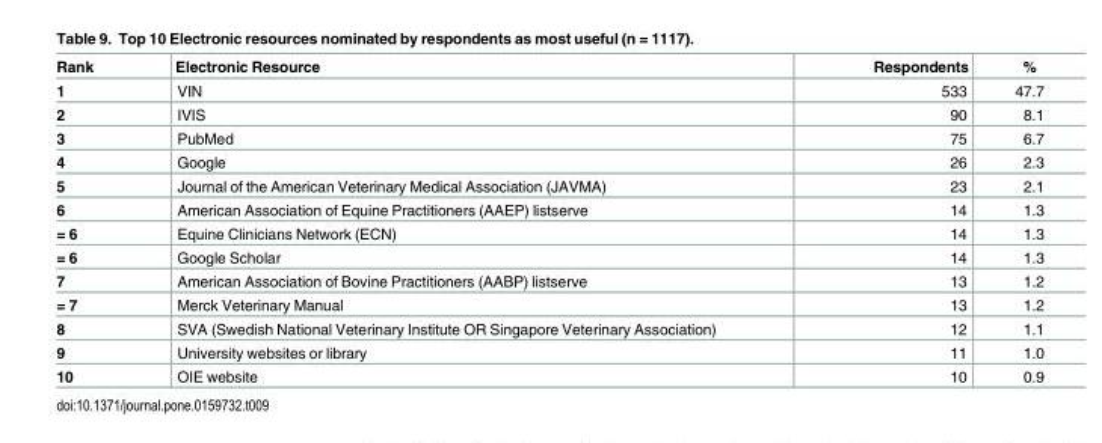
<table><thead><tr><td>Rank</td><td>Electronic Resource</td><td>Respondents</td><td>%</td></tr></thead><tbody><tr><td>1</td><td>VIN</td><td>533</td><td>47.7</td></tr><tr><td>2</td><td>IVIS</td><td>90</td><td>8.1</td></tr><tr><td>3</td><td>PubMed</td><td>75</td><td>6.7</td></tr><tr><td>4</td><td>Google</td><td>26</td><td>2.3</td></tr><tr><td>5</td><td>Journal of the American Veterinary Medical Association (JAVMA)</td><td>23</td><td>2.1</td></tr><tr><td>6</td><td>American Association of Equine Practitioners (AAEP) listserve</td><td>14</td><td>1.3</td></tr><tr><td>= 6</td><td>Equine Clinicians Network (ECN)</td><td>14</td><td>1.3</td></tr><tr><td>= 6</td><td>Google Scholar</td><td>14</td><td>1.3</td></tr><tr><td>7</td><td>American Association of Bovine Practitioners (AABP) listserve</td><td>13</td><td>1.2</td></tr><tr><td>= 7</td><td>Merck Veterinary Manual</td><td>13</td><td>1.2</td></tr><tr><td>8</td><td>SVA (Swedish National Veterinary Institute OR Singapore Veterinary Association)</td><td>12</td><td>1.1</td></tr><tr><td>9</td><td>University websites or library</td><td>11</td><td>1.0</td></tr><tr><td>10</td><td>OIE website</td><td>10</td><td>0.9</td></tr></tbody></table>